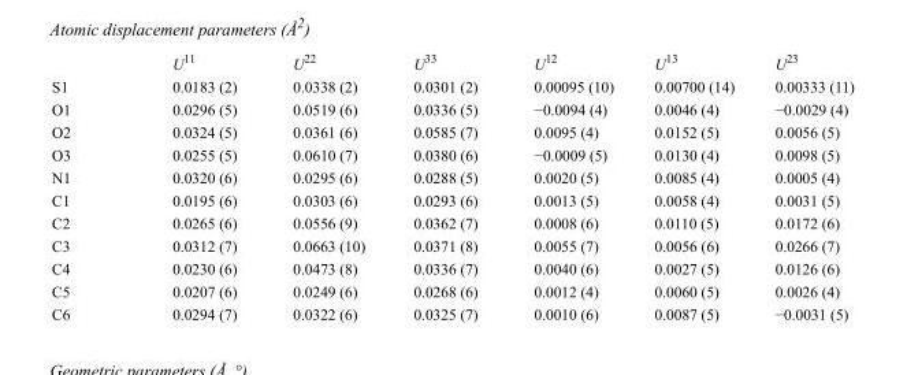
<table><thead><tr><td></td><td>U<sup>11</sup></td><td>U<sup>22</sup></td><td>U<sup>33</sup></td><td>U<sup>12</sup></td><td>U<sup>13</sup></td><td>U<sup>23</sup></td></tr></thead><tbody><tr><td>S1</td><td>0.0183 (2)</td><td>0.0338 (2)</td><td>0.0301 (2)</td><td>0.00095 (10)</td><td>0.00700 (14)</td><td>0.00333 (11)</td></tr><tr><td>O1</td><td>0.0296 (5)</td><td>0.0519 (6)</td><td>0.0336 (5)</td><td>−0.0094 (4)</td><td>0.0046 (4)</td><td>−0.0029 (4)</td></tr><tr><td>O2</td><td>0.0324 (5)</td><td>0.0361 (6)</td><td>0.0585 (7)</td><td>0.0095 (4)</td><td>0.0152 (5)</td><td>0.0056 (5)</td></tr><tr><td>O3</td><td>0.0255 (5)</td><td>0.0610 (7)</td><td>0.0380 (6)</td><td>−0.0009 (5)</td><td>0.0130 (4)</td><td>0.0098 (5)</td></tr><tr><td>N1</td><td>0.0320 (6)</td><td>0.0295 (6)</td><td>0.0288 (5)</td><td>0.0020 (5)</td><td>0.0085 (4)</td><td>0.0005 (4)</td></tr><tr><td>C1</td><td>0.0195 (6)</td><td>0.0303 (6)</td><td>0.0293 (6)</td><td>0.0013 (5)</td><td>0.0058 (4)</td><td>0.0031 (5)</td></tr><tr><td>C2</td><td>0.0265 (6)</td><td>0.0556 (9)</td><td>0.0362 (7)</td><td>0.0008 (6)</td><td>0.0110 (5)</td><td>0.0172 (6)</td></tr><tr><td>C3</td><td>0.0312 (7)</td><td>0.0663 (10)</td><td>0.0371 (8)</td><td>0.0055 (7)</td><td>0.0056 (6)</td><td>0.0266 (7)</td></tr><tr><td>C4</td><td>0.0230 (6)</td><td>0.0473 (8)</td><td>0.0336 (7)</td><td>0.0040 (6)</td><td>0.0027 (5)</td><td>0.0126 (6)</td></tr><tr><td>C5</td><td>0.0207 (6)</td><td>0.0249 (6)</td><td>0.0268 (6)</td><td>0.0012 (4)</td><td>0.0060 (5)</td><td>0.0026 (4)</td></tr><tr><td>C6</td><td>0.0294 (7)</td><td>0.0322 (6)</td><td>0.0325 (7)</td><td>0.0010 (6)</td><td>0.0087 (5)</td><td>−0.0031 (5)</td></tr></tbody></table>